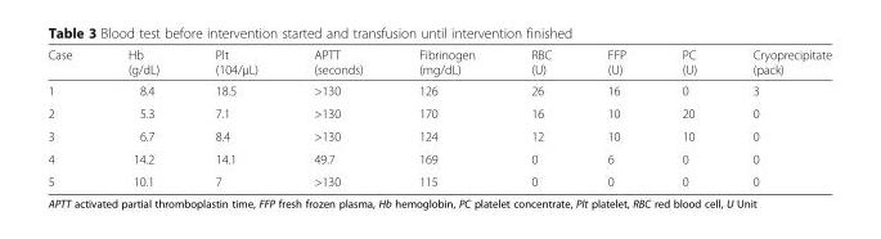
<table><thead><tr><td>Case</td><td>Hb (g/dL)</td><td>Plt (104/μL)</td><td>APTT (seconds)</td><td>Fibrinogen (mg/dL)</td><td>RBC (U)</td><td>FFP (U)</td><td>PC (U)</td><td>Cryoprecipitate (pack)</td></tr></thead><tbody><tr><td>1</td><td>8.4</td><td>18.5</td><td>&gt;130</td><td>126</td><td>26</td><td>16</td><td>0</td><td>3</td></tr><tr><td>2</td><td>5.3</td><td>7.1</td><td>&gt;130</td><td>170</td><td>16</td><td>10</td><td>20</td><td>0</td></tr><tr><td>3</td><td>6.7</td><td>8.4</td><td>&gt;130</td><td>124</td><td>12</td><td>10</td><td>10</td><td>0</td></tr><tr><td>4</td><td>14.2</td><td>14.1</td><td>49.7</td><td>169</td><td>0</td><td>6</td><td>0</td><td>0</td></tr><tr><td>5</td><td>10.1</td><td>7</td><td>&gt;130</td><td>115</td><td>0</td><td>0</td><td>0</td><td>0</td></tr></tbody></table>